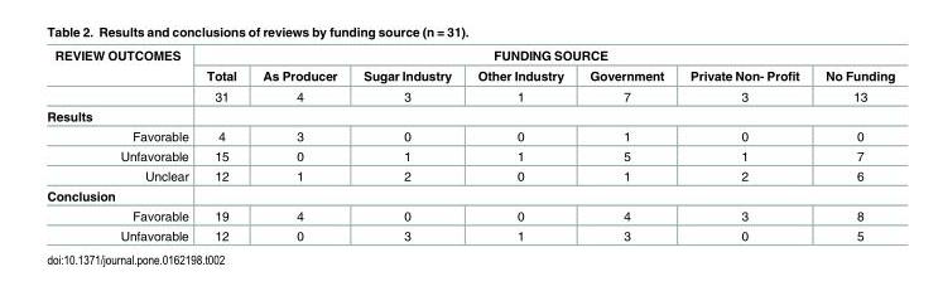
<table><thead><tr><td rowspan="2">REVIEW OUTCOMES</td><td colspan="7">FUNDING SOURCE</td></tr><tr><td>Total</td><td>As Producer</td><td>Sugar Industry</td><td>Other Industry</td><td>Government</td><td>Private Non- Profit</td><td>No Funding</td></tr></thead><tbody><tr><td></td><td>31</td><td>4</td><td>3</td><td>1</td><td>7</td><td>3</td><td>13</td></tr><tr><td colspan="8">Results</td></tr><tr><td>Favorable</td><td>4</td><td>3</td><td>0</td><td>0</td><td>1</td><td>0</td><td>0</td></tr><tr><td>Unfavorable</td><td>15</td><td>0</td><td>1</td><td>1</td><td>5</td><td>1</td><td>7</td></tr><tr><td>Unclear</td><td>12</td><td>1</td><td>2</td><td>0</td><td>1</td><td>2</td><td>6</td></tr><tr><td colspan="8">Conclusion</td></tr><tr><td>Favorable</td><td>19</td><td>4</td><td>0</td><td>0</td><td>4</td><td>3</td><td>8</td></tr><tr><td>Unfavorable</td><td>12</td><td>0</td><td>3</td><td>1</td><td>3</td><td>0</td><td>5</td></tr></tbody></table>